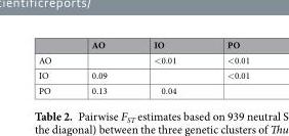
<table><thead><tr><td></td><td>AO</td><td>IO</td><td>PO</td></tr></thead><tbody><tr><td>AO</td><td></td><td>&lt;0.01</td><td>&lt;0.01</td></tr><tr><td>IO</td><td>0.09</td><td></td><td>&lt;0.01</td></tr><tr><td>PO</td><td>0.13</td><td>0.04</td><td></td></tr></tbody></table>